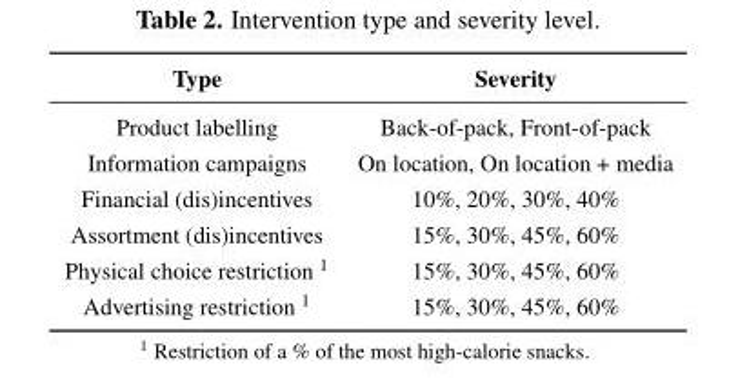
<table><thead><tr><td>Type</td><td>Severity</td></tr></thead><tbody><tr><td>Product labelling</td><td>Back-of-pack, Front-of-pack</td></tr><tr><td>Information campaigns</td><td>On location, On location + media</td></tr><tr><td>Financial (dis)incentives</td><td>10%, 20%, 30%, 40%</td></tr><tr><td>Assortment (dis)incentives</td><td>15%, 30%, 45%, 60%</td></tr><tr><td>Physical choice restriction <sup>1</sup></td><td>15%, 30%, 45%, 60%</td></tr><tr><td>Advertising restriction <sup>1</sup></td><td>15%, 30%, 45%, 60%</td></tr></tbody></table>